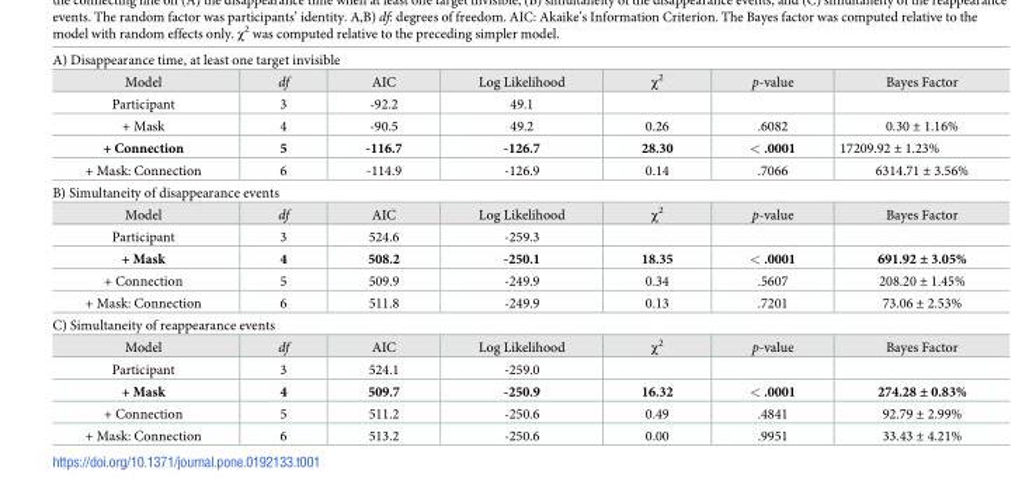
<table><tbody><tr><td colspan="7">A) Disappearance time, at least one target invisible</td></tr><tr><td>Model</td><td>df</td><td>AIC</td><td>Log Likelihood</td><td>χ<sup>2</sup></td><td>p-value</td><td>Bayes Factor</td></tr><tr><td>Participant</td><td>3</td><td>-92.2</td><td>49.1</td><td></td><td></td><td></td></tr><tr><td>+ Mask</td><td>4</td><td>-90.5</td><td>49.2</td><td>0.26</td><td>.6082</td><td>0.30 ± 1.16%</td></tr><tr><td>+ Connection</td><td>5</td><td>-116.7</td><td>-126.7</td><td>28.30</td><td>&lt; .0001</td><td>17209.92 ± 1.23%</td></tr><tr><td>+ Mask: Connection</td><td>6</td><td>-114.9</td><td>-126.9</td><td>0.14</td><td>.7066</td><td>6314.71 ± 3.56%</td></tr><tr><td colspan="7">B) Simultaneity of disappearance events</td></tr><tr><td>Model</td><td>df</td><td>AIC</td><td>Log Likelihood</td><td>χ<sup>2</sup></td><td>p-value</td><td>Bayes Factor</td></tr><tr><td>Participant</td><td>3</td><td>524.6</td><td>-259.3</td><td></td><td></td><td></td></tr><tr><td>+ Mask</td><td>4</td><td>508.2</td><td>-250.1</td><td>18.35</td><td>&lt; .0001</td><td>691.92 ± 3.05%</td></tr><tr><td>+ Connection</td><td>5</td><td>509.9</td><td>-249.9</td><td>0.34</td><td>.5607</td><td>208.20 ± 1.45%</td></tr><tr><td>+ Mask: Connection</td><td>6</td><td>511.8</td><td>-249.9</td><td>0.13</td><td>.7201</td><td>73.06 ± 2.53%</td></tr><tr><td colspan="7">C) Simultaneity of reappearance events</td></tr><tr><td>Model</td><td>df</td><td>AIC</td><td>Log Likelihood</td><td>χ<sup>2</sup></td><td>p-value</td><td>Bayes Factor</td></tr><tr><td>Participant</td><td>3</td><td>524.1</td><td>-259.0</td><td></td><td></td><td></td></tr><tr><td>+ Mask</td><td>4</td><td>509.7</td><td>-250.9</td><td>16.32</td><td>&lt; .0001</td><td>274.28 ± 0.83%</td></tr><tr><td>+ Connection</td><td>5</td><td>511.2</td><td>-250.6</td><td>0.49</td><td>.4841</td><td>92.79 ± 2.99%</td></tr><tr><td>+ Mask: Connection</td><td>6</td><td>513.2</td><td>-250.6</td><td>0.00</td><td>.9951</td><td>33.43 ± 4.21%</td></tr></tbody></table>